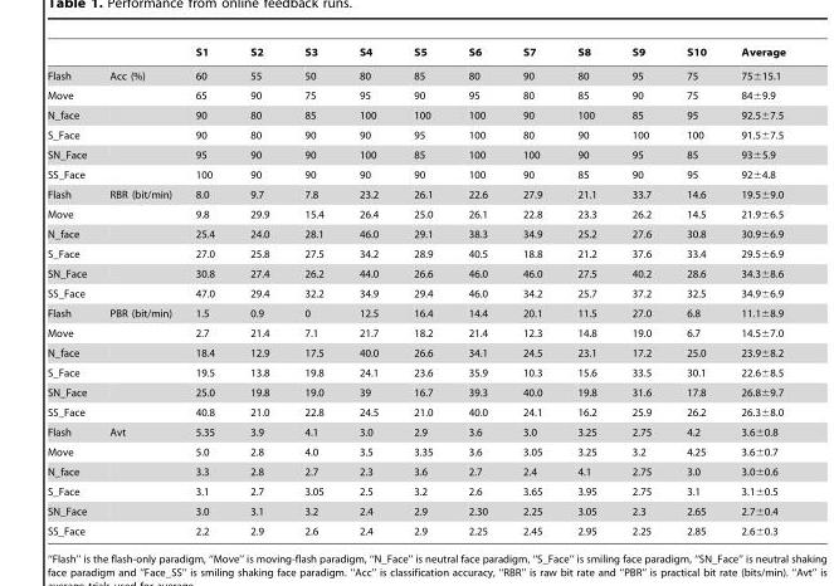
<table><thead><tr><td></td><td></td><td>S1</td><td>S2</td><td>S3</td><td>S4</td><td>S5</td><td>S6</td><td>S7</td><td>S8</td><td>S9</td><td>S10</td><td>Average</td></tr></thead><tbody><tr><td>Flash</td><td>Acc (%)</td><td>60</td><td>55</td><td>50</td><td>80</td><td>85</td><td>80</td><td>90</td><td>80</td><td>95</td><td>75</td><td>75±15.1</td></tr><tr><td>Move</td><td></td><td>65</td><td>90</td><td>75</td><td>95</td><td>90</td><td>95</td><td>80</td><td>85</td><td>90</td><td>75</td><td>84±9.9</td></tr><tr><td>N_face</td><td></td><td>90</td><td>80</td><td>85</td><td>100</td><td>100</td><td>100</td><td>90</td><td>100</td><td>85</td><td>95</td><td>92.5±7.5</td></tr><tr><td>S_Face</td><td></td><td>90</td><td>80</td><td>90</td><td>90</td><td>95</td><td>100</td><td>80</td><td>90</td><td>100</td><td>100</td><td>91.5±7.5</td></tr><tr><td>SN_Face</td><td></td><td>95</td><td>90</td><td>90</td><td>100</td><td>85</td><td>100</td><td>100</td><td>90</td><td>95</td><td>85</td><td>93±5.9</td></tr><tr><td>SS_Face</td><td></td><td>100</td><td>90</td><td>90</td><td>90</td><td>90</td><td>100</td><td>90</td><td>85</td><td>90</td><td>95</td><td>92±4.8</td></tr><tr><td>Flash</td><td>RBR (bit/min)</td><td>8.0</td><td>9.7</td><td>7.8</td><td>23.2</td><td>26.1</td><td>22.6</td><td>27.9</td><td>21.1</td><td>33.7</td><td>14.6</td><td>19.5±9.0</td></tr><tr><td>Move</td><td></td><td>9.8</td><td>29.9</td><td>15.4</td><td>26.4</td><td>25.0</td><td>26.1</td><td>22.8</td><td>23.3</td><td>26.2</td><td>14.5</td><td>21.9±6.5</td></tr><tr><td>N_face</td><td></td><td>25.4</td><td>24.0</td><td>28.1</td><td>46.0</td><td>29.1</td><td>38.3</td><td>34.9</td><td>25.2</td><td>27.6</td><td>30.8</td><td>30.9±6.9</td></tr><tr><td>S_Face</td><td></td><td>27.0</td><td>25.8</td><td>27.5</td><td>34.2</td><td>28.9</td><td>40.5</td><td>18.8</td><td>21.2</td><td>37.6</td><td>33.4</td><td>29.5±6.9</td></tr><tr><td>SN_Face</td><td></td><td>30.8</td><td>27.4</td><td>26.2</td><td>44.0</td><td>26.6</td><td>46.0</td><td>46.0</td><td>27.5</td><td>40.2</td><td>28.6</td><td>34.3±8.6</td></tr><tr><td>SS_Face</td><td></td><td>47.0</td><td>29.4</td><td>32.2</td><td>34.9</td><td>29.4</td><td>46.0</td><td>34.2</td><td>25.7</td><td>37.2</td><td>32.5</td><td>34.9±6.9</td></tr><tr><td>Flash</td><td>PBR (bit/min)</td><td>1.5</td><td>0.9</td><td>0</td><td>12.5</td><td>16.4</td><td>14.4</td><td>20.1</td><td>11.5</td><td>27.0</td><td>6.8</td><td>11.1±8.9</td></tr><tr><td>Move</td><td></td><td>2.7</td><td>21.4</td><td>7.1</td><td>21.7</td><td>18.2</td><td>21.4</td><td>12.3</td><td>14.8</td><td>19.0</td><td>6.7</td><td>14.5±7.0</td></tr><tr><td>N_face</td><td></td><td>18.4</td><td>12.9</td><td>17.5</td><td>40.0</td><td>26.6</td><td>34.1</td><td>24.5</td><td>23.1</td><td>17.2</td><td>25.0</td><td>23.9±8.2</td></tr><tr><td>S_Face</td><td></td><td>19.5</td><td>13.8</td><td>19.8</td><td>24.1</td><td>23.6</td><td>35.9</td><td>10.3</td><td>15.6</td><td>33.5</td><td>30.1</td><td>22.6±8.5</td></tr><tr><td>SN_Face</td><td></td><td>25.0</td><td>19.8</td><td>19.0</td><td>39</td><td>16.7</td><td>39.3</td><td>40.0</td><td>19.8</td><td>31.6</td><td>17.8</td><td>26.8±9.7</td></tr><tr><td>SS_Face</td><td></td><td>40.8</td><td>21.0</td><td>22.8</td><td>24.5</td><td>21.0</td><td>40.0</td><td>24.1</td><td>16.2</td><td>25.9</td><td>26.2</td><td>26.3±8.0</td></tr><tr><td>Flash</td><td>Avt</td><td>5.35</td><td>3.9</td><td>4.1</td><td>3.0</td><td>2.9</td><td>3.6</td><td>3.0</td><td>3.25</td><td>2.75</td><td>4.2</td><td>3.6±0.8</td></tr><tr><td>Move</td><td></td><td>5.0</td><td>2.8</td><td>4.0</td><td>3.5</td><td>3.35</td><td>3.6</td><td>3.05</td><td>3.25</td><td>3.2</td><td>4.25</td><td>3.6±0.7</td></tr><tr><td>N_face</td><td></td><td>3.3</td><td>2.8</td><td>2.7</td><td>2.3</td><td>3.6</td><td>2.7</td><td>2.4</td><td>4.1</td><td>2.75</td><td>3.0</td><td>3.0±0.6</td></tr><tr><td>S_Face</td><td></td><td>3.1</td><td>2.7</td><td>3.05</td><td>2.5</td><td>3.2</td><td>2.6</td><td>3.65</td><td>3.95</td><td>2.75</td><td>3.1</td><td>3.1±0.5</td></tr><tr><td>SN_Face</td><td></td><td>3.0</td><td>3.1</td><td>3.2</td><td>2.4</td><td>2.9</td><td>2.30</td><td>2.25</td><td>3.05</td><td>2.3</td><td>2.65</td><td>2.7±0.4</td></tr><tr><td>SS_Face</td><td></td><td>2.2</td><td>2.9</td><td>2.6</td><td>2.4</td><td>2.9</td><td>2.25</td><td>2.45</td><td>2.95</td><td>2.25</td><td>2.85</td><td>2.6±0.3</td></tr></tbody></table>